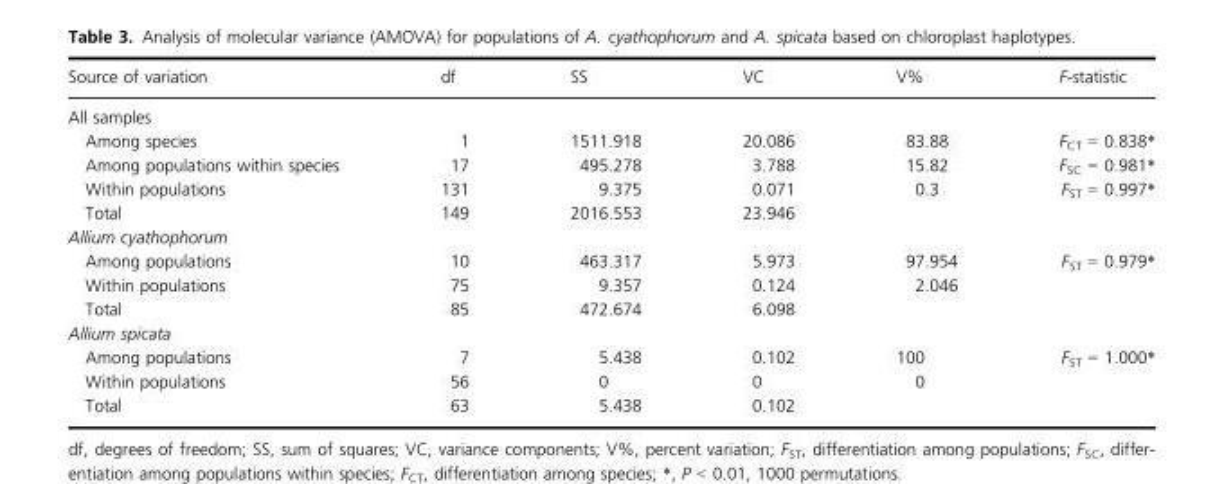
<table><thead><tr><td>Source of variation</td><td>df</td><td>SS</td><td>VC</td><td>V%</td><td>F-statistic</td></tr></thead><tbody><tr><td colspan="6">All samples</td></tr><tr><td>Among species</td><td>1</td><td>1511.918</td><td>20.086</td><td>83.88</td><td>F<sub>CT</sub> = 0.838*</td></tr><tr><td>Among populations within species</td><td>17</td><td>495.278</td><td>3.788</td><td>15.82</td><td>F<sub>SC</sub> = 0.981*</td></tr><tr><td>Within populations</td><td>131</td><td>9.375</td><td>0.071</td><td>0.3</td><td>F<sub>ST</sub> = 0.997*</td></tr><tr><td>Total</td><td>149</td><td>2016.553</td><td>23.946</td><td></td><td></td></tr><tr><td colspan="6">Allium cyathophorum</td></tr><tr><td>Among populations</td><td>10</td><td>463.317</td><td>5.973</td><td>97.954</td><td>F<sub>ST</sub> = 0.979*</td></tr><tr><td>Within populations</td><td>75</td><td>9.357</td><td>0.124</td><td>2.046</td><td></td></tr><tr><td>Total</td><td>85</td><td>472.674</td><td>6.098</td><td></td><td></td></tr><tr><td colspan="6">Allium spicata</td></tr><tr><td>Among populations</td><td>7</td><td>5.438</td><td>0.102</td><td>100</td><td>F<sub>ST</sub> = 1.000*</td></tr><tr><td>Within populations</td><td>56</td><td>0</td><td>0</td><td>0</td><td></td></tr><tr><td>Total</td><td>63</td><td>5.438</td><td>0.102</td><td></td><td></td></tr></tbody></table>